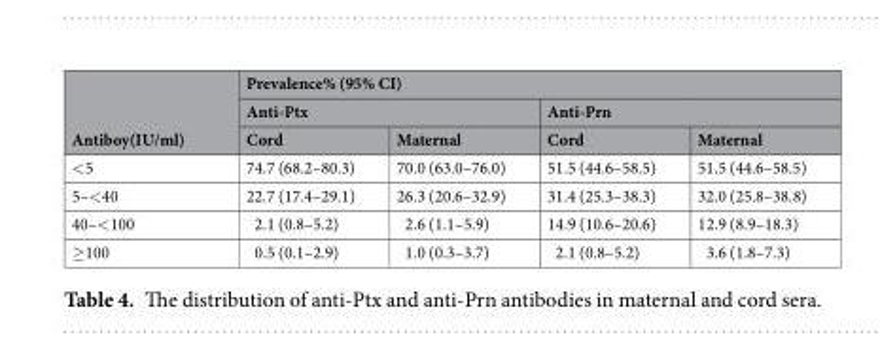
<table><thead><tr><td rowspan="3">Antiboy(IU/ml)</td><td colspan="4">Prevalence% (95% CI)</td></tr><tr><td colspan="2">Anti-Ptx</td><td colspan="2">Anti-Prn</td></tr><tr><td>Cord</td><td>Maternal</td><td>Cord</td><td>Maternal</td></tr></thead><tbody><tr><td>&lt;5</td><td>74.7 (68.2–80.3)</td><td>70.0 (63.0–76.0)</td><td>51.5 (44.6–58.5)</td><td>51.5 (44.6–58.5)</td></tr><tr><td>5–&lt;40</td><td>22.7 (17.4–29.1)</td><td>26.3 (20.6–32.9)</td><td>31.4 (25.3–38.3)</td><td>32.0 (25.8–38.8)</td></tr><tr><td>40–&lt;100</td><td>2.1 (0.8–5.2)</td><td>2.6 (1.1–5.9)</td><td>14.9 (10.6–20.6)</td><td>12.9 (8.9–18.3)</td></tr><tr><td>≥100</td><td>0.5 (0.1–2.9)</td><td>1.0 (0.3–3.7)</td><td>2.1 (0.8–5.2)</td><td>3.6 (1.8–7.3)</td></tr></tbody></table>